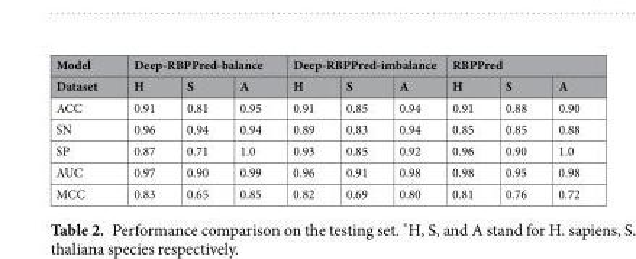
<table><thead><tr><td rowspan="2">Model Dataset</td><td colspan="3">Deep-RBPPred-balance</td><td colspan="3">Deep-RBPPred-imbalance</td><td colspan="3">RBPPred</td></tr><tr><td>H</td><td>S</td><td>A</td><td>H</td><td>S</td><td>A</td><td>H</td><td>S</td><td>A</td></tr></thead><tbody><tr><td>ACC</td><td>0.91</td><td>0.81</td><td>0.95</td><td>0.91</td><td>0.85</td><td>0.94</td><td>0.91</td><td>0.88</td><td>0.90</td></tr><tr><td>SN</td><td>0.96</td><td>0.94</td><td>0.94</td><td>0.89</td><td>0.83</td><td>0.94</td><td>0.85</td><td>0.85</td><td>0.88</td></tr><tr><td>SP</td><td>0.87</td><td>0.71</td><td>1.0</td><td>0.93</td><td>0.85</td><td>0.92</td><td>0.96</td><td>0.90</td><td>1.0</td></tr><tr><td>AUC</td><td>0.97</td><td>0.90</td><td>0.99</td><td>0.96</td><td>0.91</td><td>0.98</td><td>0.98</td><td>0.95</td><td>0.98</td></tr><tr><td>MCC</td><td>0.83</td><td>0.65</td><td>0.85</td><td>0.82</td><td>0.69</td><td>0.80</td><td>0.81</td><td>0.76</td><td>0.72</td></tr></tbody></table>